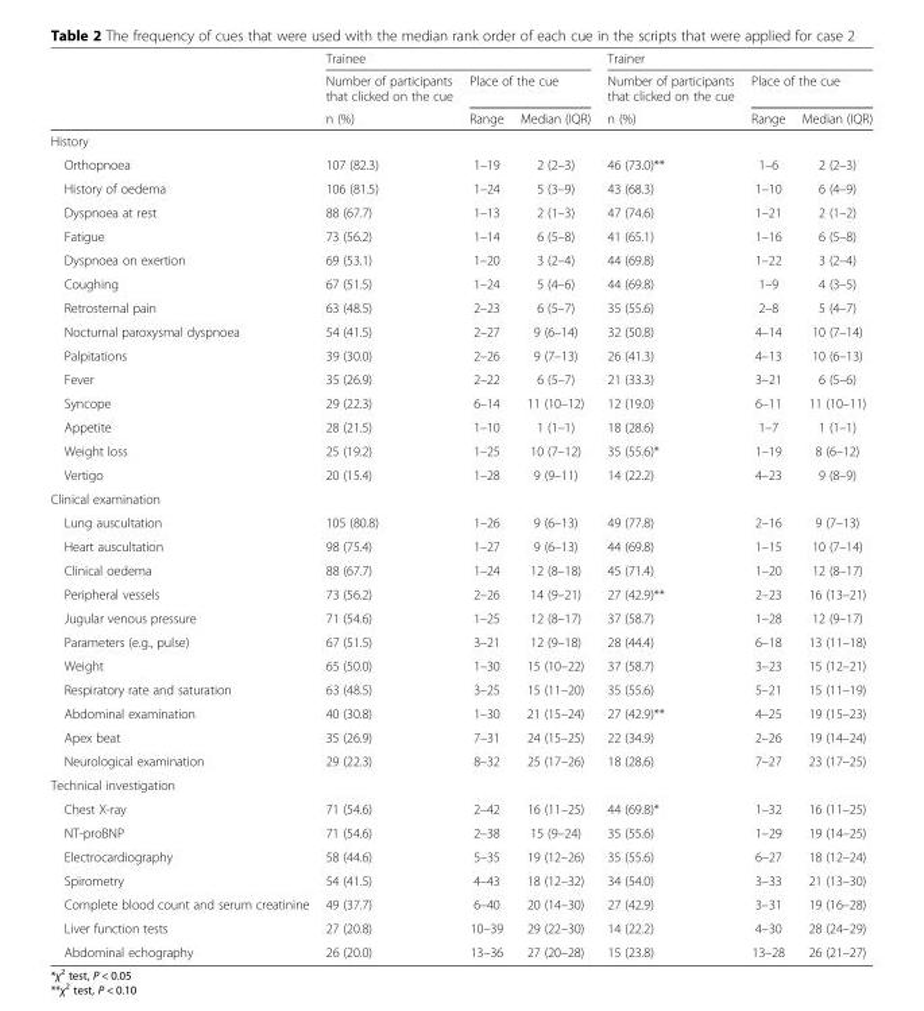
<table><thead><tr><td rowspan="3"></td><td colspan="3">Trainee</td><td colspan="3">Trainer</td></tr><tr><td rowspan="2">Number of participants that clicked on the cue n (%)</td><td colspan="2">Place of the cue</td><td rowspan="2">Number of participants that clicked on the cue n (%)</td><td colspan="2">Place of the cue</td></tr><tr><td>Range</td><td>Median (IQR)</td><td>Range</td><td>Median (IQR)</td></tr></thead><tbody><tr><td colspan="7">History</td></tr><tr><td>Orthopnoea</td><td>107 (82.3)</td><td>1–19</td><td>2 (2–3)</td><td>46 (73.0)**</td><td>1–6</td><td>2 (2–3)</td></tr><tr><td>History of oedema</td><td>106 (81.5)</td><td>1–24</td><td>5 (3–9)</td><td>43 (68.3)</td><td>1–10</td><td>6 (4–9)</td></tr><tr><td>Dyspnoea at rest</td><td>88 (67.7)</td><td>1–13</td><td>2 (1–3)</td><td>47 (74.6)</td><td>1–21</td><td>2 (1–2)</td></tr><tr><td>Fatigue</td><td>73 (56.2)</td><td>1–14</td><td>6 (5–8)</td><td>41 (65.1)</td><td>1–16</td><td>6 (5–8)</td></tr><tr><td>Dyspnoea on exertion</td><td>69 (53.1)</td><td>1–20</td><td>3 (2–4)</td><td>44 (69.8)</td><td>1–22</td><td>3 (2–4)</td></tr><tr><td>Coughing</td><td>67 (51.5)</td><td>1–24</td><td>5 (4–6)</td><td>44 (69.8)</td><td>1–9</td><td>4 (3–5)</td></tr><tr><td>Retrosternal pain</td><td>63 (48.5)</td><td>2–23</td><td>6 (5–7)</td><td>35 (55.6)</td><td>2–8</td><td>5 (4–7)</td></tr><tr><td>Nocturnal paroxysmal dyspnoea</td><td>54 (41.5)</td><td>2–27</td><td>9 (6–14)</td><td>32 (50.8)</td><td>4–14</td><td>10 (7–14)</td></tr><tr><td>Palpitations</td><td>39 (30.0)</td><td>2–26</td><td>9 (7–13)</td><td>26 (41.3)</td><td>4–13</td><td>10 (6–13)</td></tr><tr><td>Fever</td><td>35 (26.9)</td><td>2–22</td><td>6 (5–7)</td><td>21 (33.3)</td><td>3–21</td><td>6 (5–6)</td></tr><tr><td>Syncope</td><td>29 (22.3)</td><td>6–14</td><td>11 (10–12)</td><td>12 (19.0)</td><td>6–11</td><td>11 (10–11)</td></tr><tr><td>Appetite</td><td>28 (21.5)</td><td>1–10</td><td>1 (1–1)</td><td>18 (28.6)</td><td>1–7</td><td>1 (1–1)</td></tr><tr><td>Weight loss</td><td>25 (19.2)</td><td>1–25</td><td>10 (7–12)</td><td>35 (55.6)*</td><td>1–19</td><td>8 (6–12)</td></tr><tr><td>Vertigo</td><td>20 (15.4)</td><td>1–28</td><td>9 (9–11)</td><td>14 (22.2)</td><td>4–23</td><td>9 (8–9)</td></tr><tr><td colspan="7">Clinical examination</td></tr><tr><td>Lung auscultation</td><td>105 (80.8)</td><td>1–26</td><td>9 (6–13)</td><td>49 (77.8)</td><td>2–16</td><td>9 (7–13)</td></tr><tr><td>Heart auscultation</td><td>98 (75.4)</td><td>1–27</td><td>9 (6–13)</td><td>44 (69.8)</td><td>1–15</td><td>10 (7–14)</td></tr><tr><td>Clinical oedema</td><td>88 (67.7)</td><td>1–24</td><td>12 (8–18)</td><td>45 (71.4)</td><td>1–20</td><td>12 (8–17)</td></tr><tr><td>Peripheral vessels</td><td>73 (56.2)</td><td>2–26</td><td>14 (9–21)</td><td>27 (42.9)**</td><td>2–23</td><td>16 (13–21)</td></tr><tr><td>Jugular venous pressure</td><td>71 (54.6)</td><td>1–25</td><td>12 (8–17)</td><td>37 (58.7)</td><td>1–28</td><td>12 (9–17)</td></tr><tr><td>Parameters (e.g., pulse)</td><td>67 (51.5)</td><td>3–21</td><td>12 (9–18)</td><td>28 (44.4)</td><td>6–18</td><td>13 (11–18)</td></tr><tr><td>Weight</td><td>65 (50.0)</td><td>1–30</td><td>15 (10–22)</td><td>37 (58.7)</td><td>3–23</td><td>15 (12–21)</td></tr><tr><td>Respiratory rate and saturation</td><td>63 (48.5)</td><td>3–25</td><td>15 (11–20)</td><td>35 (55.6)</td><td>5–21</td><td>15 (11–19)</td></tr><tr><td>Abdominal examination</td><td>40 (30.8)</td><td>1–30</td><td>21 (15–24)</td><td>27 (42.9)**</td><td>4–25</td><td>19 (15–23)</td></tr><tr><td>Apex beat</td><td>35 (26.9)</td><td>7–31</td><td>24 (15–25)</td><td>22 (34.9)</td><td>2–26</td><td>19 (14–24)</td></tr><tr><td>Neurological examination</td><td>29 (22.3)</td><td>8–32</td><td>25 (17–26)</td><td>18 (28.6)</td><td>7–27</td><td>23 (17–25)</td></tr><tr><td colspan="7">Technical investigation</td></tr><tr><td>Chest X-ray</td><td>71 (54.6)</td><td>2–42</td><td>16 (11–25)</td><td>44 (69.8)*</td><td>1–32</td><td>16 (11–25)</td></tr><tr><td>NT-proBNP</td><td>71 (54.6)</td><td>2–38</td><td>15 (9–24)</td><td>35 (55.6)</td><td>1–29</td><td>19 (14–25)</td></tr><tr><td>Electrocardiography</td><td>58 (44.6)</td><td>5–35</td><td>19 (12–26)</td><td>35 (55.6)</td><td>6–27</td><td>18 (12–24)</td></tr><tr><td>Spirometry</td><td>54 (41.5)</td><td>4–43</td><td>18 (12–32)</td><td>34 (54.0)</td><td>3–33</td><td>21 (13–30)</td></tr><tr><td>Complete blood count and serum creatinine</td><td>49 (37.7)</td><td>6–40</td><td>20 (14–30)</td><td>27 (42.9)</td><td>3–31</td><td>19 (16–28)</td></tr><tr><td>Liver function tests</td><td>27 (20.8)</td><td>10–39</td><td>29 (22–30)</td><td>14 (22.2)</td><td>4–30</td><td>28 (24–29)</td></tr><tr><td>Abdominal echography</td><td>26 (20.0)</td><td>13–36</td><td>27 (20–28)</td><td>15 (23.8)</td><td>13–28</td><td>26 (21–27)</td></tr></tbody></table>